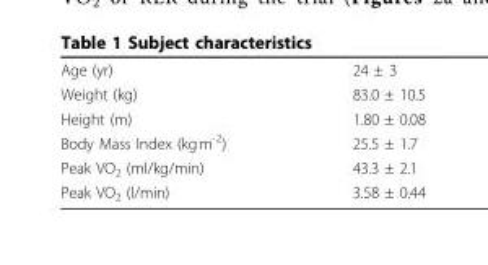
<table><tbody><tr><td>Age (yr)</td><td>24 ± 3</td></tr><tr><td>Weight (kg)</td><td>83.0 ± 10.5</td></tr><tr><td>Height (m)</td><td>1.80 ± 0.08</td></tr><tr><td>Body Mass Index (kg<sup>.</sup>m<sup>-2</sup>)</td><td>25.5 ± 1.7</td></tr><tr><td>Peak VO<sub>2</sub> (ml/kg/min)</td><td>43.3 ± 2.1</td></tr><tr><td>Peak VO<sub>2</sub> (l/min)</td><td>3.58 ± 0.44</td></tr></tbody></table>